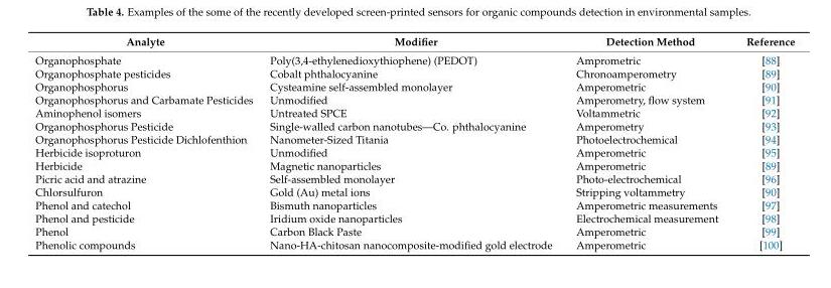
<table><thead><tr><td>Analyte</td><td>Modifier</td><td>Detection Method</td><td>Reference</td></tr></thead><tbody><tr><td>Organophosphate</td><td>Poly(3,4-ethylenedioxythiophene) (PEDOT)</td><td>Amprometric</td><td>[88]</td></tr><tr><td>Organophosphate pesticides</td><td>Cobalt phthalocyanine</td><td>Chronoamperometry</td><td>[89]</td></tr><tr><td>Organophosphorus</td><td>Cysteamine self-assembled monolayer</td><td>Amperometric</td><td>[90]</td></tr><tr><td>Organophosphorus and Carbamate Pesticides</td><td>Unmodified</td><td>Amperometry, flow system</td><td>[91]</td></tr><tr><td>Aminophenol isomers</td><td>Untreated SPCE</td><td>Voltammetric</td><td>[92]</td></tr><tr><td>Organophosphorus Pesticide</td><td>Single-walled carbon nanotubes—Co. phthalocyanine</td><td>Amperometry</td><td>[93]</td></tr><tr><td>Organophosphorus Pesticide Dichlofenthion</td><td>Nanometer-Sized Titania</td><td>Photoelectrochemical</td><td>[94]</td></tr><tr><td>Herbicide isoproturon</td><td>Unmodified</td><td>Amperometric</td><td>[95]</td></tr><tr><td>Herbicide</td><td>Magnetic nanoparticles</td><td>Amperometric</td><td>[89]</td></tr><tr><td>Picric acid and atrazine</td><td>Self-assembled monolayer</td><td>Photo-electrochemical</td><td>[96]</td></tr><tr><td>Chlorsulfuron</td><td>Gold (Au) metal ions</td><td>Stripping voltammetry</td><td>[90]</td></tr><tr><td>Phenol and catechol</td><td>Bismuth nanoparticles</td><td>Amperometric measurements</td><td>[97]</td></tr><tr><td>Phenol and pesticide</td><td>Iridium oxide nanoparticles</td><td>Electrochemical measurement</td><td>[98]</td></tr><tr><td>Phenol</td><td>Carbon Black Paste</td><td>Amperometric</td><td>[99]</td></tr><tr><td>Phenolic compounds</td><td>Nano-HA-chitosan nanocomposite-modified gold electrode</td><td>Amperometric</td><td>[100]</td></tr></tbody></table>